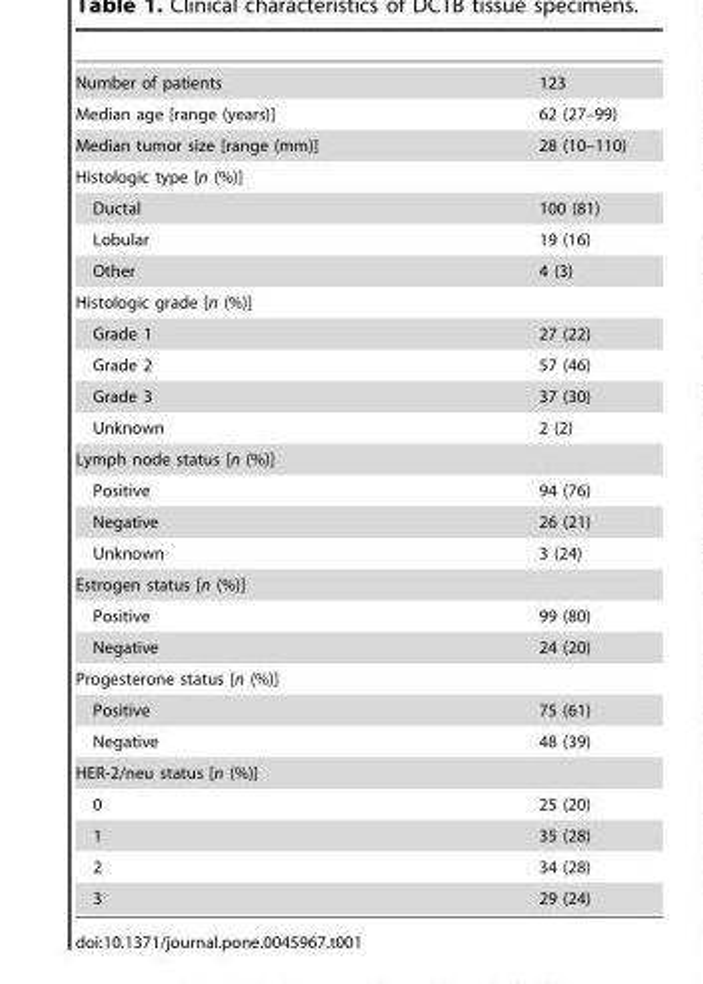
<table><tbody><tr><td>Number of patients</td><td>123</td></tr><tr><td>Median age [range (years)]</td><td>62 (27–99)</td></tr><tr><td>Median tumor size [range (mm)]</td><td>28 (10–110)</td></tr><tr><td colspan="2">Histologic type [n (%)]</td></tr><tr><td>Ductal</td><td>100 (81)</td></tr><tr><td>Lobular</td><td>19 (16)</td></tr><tr><td>Other</td><td>4 (3)</td></tr><tr><td colspan="2">Histologic grade [n (%)]</td></tr><tr><td>Grade 1</td><td>27 (22)</td></tr><tr><td>Grade 2</td><td>57 (46)</td></tr><tr><td>Grade 3</td><td>37 (30)</td></tr><tr><td>Unknown</td><td>2 (2)</td></tr><tr><td colspan="2">Lymph node status [n (%)]</td></tr><tr><td>Positive</td><td>94 (76)</td></tr><tr><td>Negative</td><td>26 (21)</td></tr><tr><td>Unknown</td><td>3 (24)</td></tr><tr><td colspan="2">Estrogen status [n (%)]</td></tr><tr><td>Positive</td><td>99 (80)</td></tr><tr><td>Negative</td><td>24 (20)</td></tr><tr><td colspan="2">Progesterone status [n (%)]</td></tr><tr><td>Positive</td><td>75 (61)</td></tr><tr><td>Negative</td><td>48 (39)</td></tr><tr><td colspan="2">HER-2/neu status [n (%)]</td></tr><tr><td>0</td><td>25 (20)</td></tr><tr><td>1</td><td>35 (28)</td></tr><tr><td>2</td><td>34 (28)</td></tr><tr><td>3</td><td>29 (24)</td></tr></tbody></table>